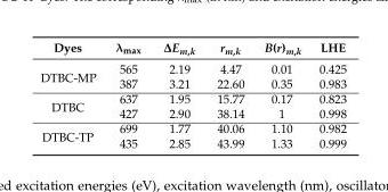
<table><thead><tr><td>Dyes</td><td>λ<sub>max</sub></td><td>∆E<sub>m,k</sub></td><td>r<sub>m,k</sub></td><td>B(r)<sub>m,k</sub></td><td>LHE</td></tr></thead><tbody><tr><td rowspan="2">DTBC-MP</td><td>565</td><td>2.19</td><td>4.47</td><td>0.01</td><td>0.425</td></tr><tr><td>387</td><td>3.21</td><td>22.60</td><td>0.35</td><td>0.983</td></tr><tr><td rowspan="2">DTBC</td><td>637</td><td>1.95</td><td>15.77</td><td>0.17</td><td>0.823</td></tr><tr><td>427</td><td>2.90</td><td>38.14</td><td>1</td><td>0.998</td></tr><tr><td rowspan="2">DTBC-TP</td><td>699</td><td>1.77</td><td>40.06</td><td>1.10</td><td>0.982</td></tr><tr><td>435</td><td>2.85</td><td>43.99</td><td>1.33</td><td>0.999</td></tr></tbody></table>